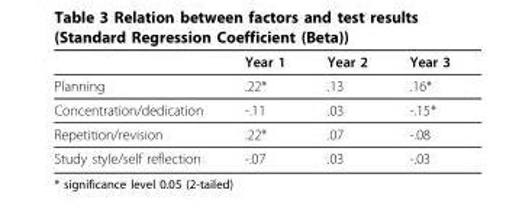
<table><thead><tr><td></td><td>Year 1</td><td>Year 2</td><td>Year 3</td></tr></thead><tbody><tr><td>Planning</td><td>.22*</td><td>.13</td><td>.16*</td></tr><tr><td>Concentration/dedication</td><td>-.11</td><td>.03</td><td>-.15*</td></tr><tr><td>Repetition/revision</td><td>.22*</td><td>.07</td><td>-.08</td></tr><tr><td>Study style/self reflection</td><td>-.07</td><td>.03</td><td>-.03</td></tr></tbody></table>